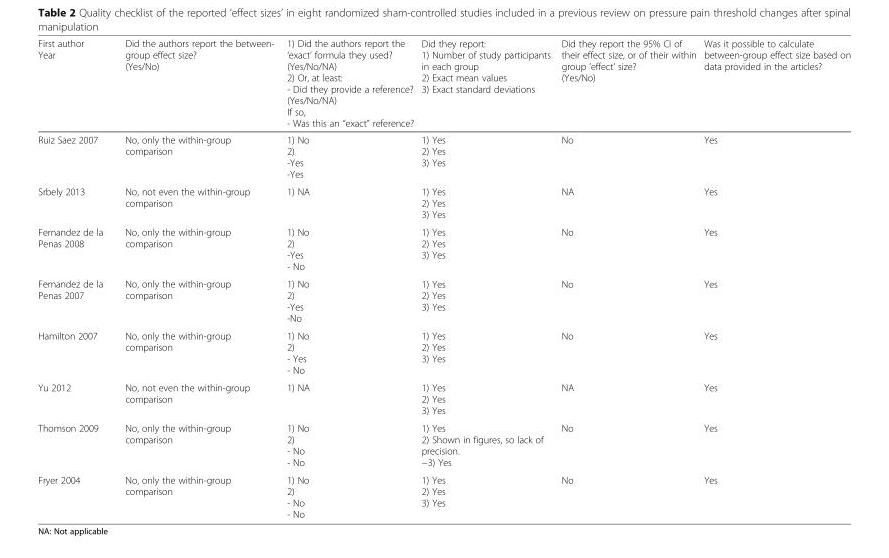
<table><thead><tr><td>First author Year</td><td>Did the authors report the between- group effect size? (Yes/No)</td><td>1) Did the authors report the ‘exact’ formula they used? (Yes/No/NA) 2) Or, at least: - Did they provide a reference? (Yes/No/NA) If so, - Was this an “exact” reference?</td><td>Did they report: 1) Number of study participants in each group 2) Exact mean values 3) Exact standard deviations</td><td>Did they report the 95% CI of their effect size, or of their within group ‘effect’ size? (Yes/No)</td><td>Was it possible to calculate between-group effect size based on data provided in the articles?</td></tr></thead><tbody><tr><td>Ruiz Saez 2007</td><td>No, only the within-group comparison</td><td>1) No 2) -Yes -Yes</td><td>1) Yes 2) Yes 3) Yes</td><td>No</td><td>Yes</td></tr><tr><td>Srbely 2013</td><td>No, not even the within-group comparison</td><td>1) NA</td><td>1) Yes 2) Yes 3) Yes</td><td>NA</td><td>Yes</td></tr><tr><td>Fernandez de la Penas 2008</td><td>No, only the within-group comparison</td><td>1) No 2) -Yes - No</td><td>1) Yes 2) Yes 3) Yes</td><td>No</td><td>Yes</td></tr><tr><td>Fernandez de la Penas 2007</td><td>No, only the within-group comparison</td><td>1) No 2) -Yes -No</td><td>1) Yes 2) Yes 3) Yes</td><td>No</td><td>Yes</td></tr><tr><td>Hamilton 2007</td><td>No, only the within-group comparison</td><td>1) No 2) - Yes - No</td><td>1) Yes 2) Yes 3) Yes</td><td>No</td><td>Yes</td></tr><tr><td>Yu 2012</td><td>No, not even the within-group comparison</td><td>1) NA</td><td>1) Yes 2) Yes 3) Yes</td><td>NA</td><td>Yes</td></tr><tr><td>Thomson 2009</td><td>No, only the within-group comparison</td><td>1) No 2) - No - No</td><td>1) Yes 2) Shown in figures, so lack of precision. −3) Yes</td><td>No</td><td>Yes</td></tr><tr><td>Fryer 2004</td><td>No, only the within-group comparison</td><td>1) No 2) - No - No</td><td>1) Yes 2) Yes 3) Yes</td><td>No</td><td>Yes</td></tr></tbody></table>